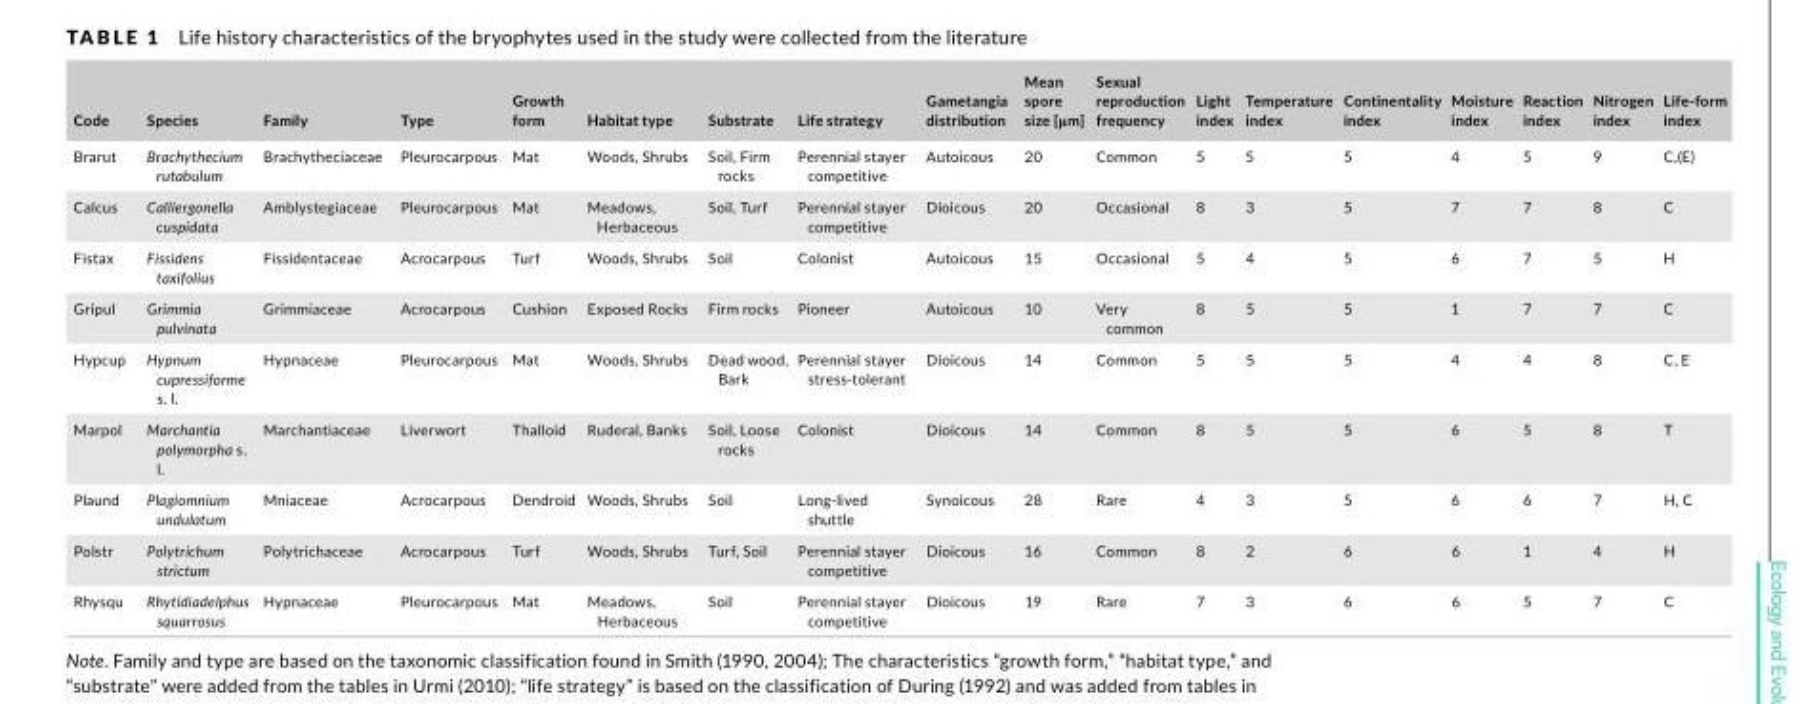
<table><thead><tr><td>Code</td><td>Species</td><td>Family</td><td>Type</td><td>Growth form</td><td>Habitat type</td><td>Substrate</td><td>Life strategy</td><td>Gametangia distribution</td><td>Mean spore size [μm]</td><td>Sexual reproduction frequency</td><td>Light index</td><td>Temperature index</td><td>Continentality index</td><td>Moisture index</td><td>Reaction index</td><td>Nitrogen index</td><td>Life- form index</td></tr></thead><tbody><tr><td>Brarut</td><td>Brachythecium rutabulum</td><td>Brachytheciaceae</td><td>Pleurocarpous</td><td>Mat</td><td>Woods, Shrubs</td><td>Soil, Firm rocks</td><td>Perennial stayer competitive</td><td>Autoicous</td><td>20</td><td>Common</td><td>5</td><td>5</td><td>5</td><td>4</td><td>5</td><td>9</td><td>C,(E)</td></tr><tr><td>Calcus</td><td>Calliergonella cuspidata</td><td>Amblystegiaceae</td><td>Pleurocarpous</td><td>Mat</td><td>Meadows, Herbaceous</td><td>Soil, Turf</td><td>Perennial stayer competitive</td><td>Dioicous</td><td>20</td><td>Occasional</td><td>8</td><td>3</td><td>5</td><td>7</td><td>7</td><td>8</td><td>C</td></tr><tr><td>Fistax</td><td>Fissidens taxifolius</td><td>Fissidentaceae</td><td>Acrocarpous</td><td>Turf</td><td>Woods, Shrubs</td><td>Soil</td><td>Colonist</td><td>Autoicous</td><td>15</td><td>Occasional</td><td>5</td><td>4</td><td>5</td><td>6</td><td>7</td><td>5</td><td>H</td></tr><tr><td>Gripul</td><td>Grimmia pulvinata</td><td>Grimmiaceae</td><td>Acrocarpous</td><td>Cushion</td><td>Exposed Rocks</td><td>Firm rocks</td><td>Pioneer</td><td>Autoicous</td><td>10</td><td>Very common</td><td>8</td><td>5</td><td>5</td><td>1</td><td>7</td><td>7</td><td>C</td></tr><tr><td>Hypcup</td><td>Hypnum cupressiforme s. l.</td><td>Hypnaceae</td><td>Pleurocarpous</td><td>Mat</td><td>Woods, Shrubs</td><td>Dead wood, Bark</td><td>Perennial stayer stress- tolerant</td><td>Dioicous</td><td>14</td><td>Common</td><td>5</td><td>5</td><td>5</td><td>4</td><td>4</td><td>8</td><td>C, E</td></tr><tr><td>Marpol</td><td>Marchantia polymorpha s. l.</td><td>Marchantiaceae</td><td>Liverwort</td><td>Thalloid</td><td>Ruderal, Banks</td><td>Soil, Loose rocks</td><td>Colonist</td><td>Dioicous</td><td>14</td><td>Common</td><td>8</td><td>5</td><td>5</td><td>6</td><td>5</td><td>8</td><td>T</td></tr><tr><td>Plaund</td><td>Plagiomnium undulatum</td><td>Mniaceae</td><td>Acrocarpous</td><td>Dendroid</td><td>Woods, Shrubs</td><td>Soil</td><td>Long- lived shuttle</td><td>Synoicous</td><td>28</td><td>Rare</td><td>4</td><td>3</td><td>5</td><td>6</td><td>6</td><td>7</td><td>H, C</td></tr><tr><td>Polstr</td><td>Polytrichum strictum</td><td>Polytrichaceae</td><td>Acrocarpous</td><td>Turf</td><td>Woods, Shrubs</td><td>Turf, Soil</td><td>Perennial stayer competitive</td><td>Dioicous</td><td>16</td><td>Common</td><td>8</td><td>2</td><td>6</td><td>6</td><td>1</td><td>4</td><td>H</td></tr><tr><td>Rhysqu</td><td>Rhytidiadelphus squarrosus</td><td>Hypnaceae</td><td>Pleurocarpous</td><td>Mat</td><td>Meadows, Herbaceous</td><td>Soil</td><td>Perennial stayer competitive</td><td>Dioicous</td><td>19</td><td>Rare</td><td>7</td><td>3</td><td>6</td><td>6</td><td>5</td><td>7</td><td>C</td></tr></tbody></table>